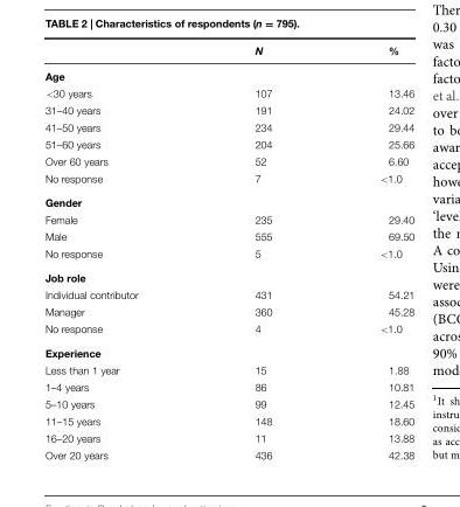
<table><thead><tr><td></td><td>N</td><td>%</td></tr></thead><tbody><tr><td colspan="3">Age</td></tr><tr><td>&lt;30 years</td><td>107</td><td>13.46</td></tr><tr><td>31–40 years</td><td>191</td><td>24.02</td></tr><tr><td>41–50 years</td><td>234</td><td>29.44</td></tr><tr><td>51–60 years</td><td>204</td><td>25.66</td></tr><tr><td>Over 60 years</td><td>52</td><td>6.60</td></tr><tr><td>No response</td><td>7</td><td>&lt;1.0</td></tr><tr><td colspan="3">Gender</td></tr><tr><td>Female</td><td>235</td><td>29.40</td></tr><tr><td>Male</td><td>555</td><td>69.50</td></tr><tr><td>No response</td><td>5</td><td>&lt;1.0</td></tr><tr><td colspan="3">Job role</td></tr><tr><td>Individual contributor</td><td>431</td><td>54.21</td></tr><tr><td>Manager</td><td>360</td><td>45.28</td></tr><tr><td>No response</td><td>4</td><td>&lt;1.0</td></tr><tr><td colspan="3">Experience</td></tr><tr><td>Less than 1 year</td><td>15</td><td>1.88</td></tr><tr><td>1–4 years</td><td>86</td><td>10.81</td></tr><tr><td>5–10 years</td><td>99</td><td>12.45</td></tr><tr><td>11–15 years</td><td>148</td><td>18.60</td></tr><tr><td>16–20 years</td><td>11</td><td>13.88</td></tr><tr><td>Over 20 years</td><td>436</td><td>42.38</td></tr></tbody></table>